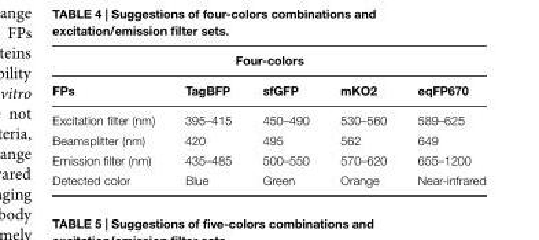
<table><thead><tr><td colspan="5">Four-colors</td></tr><tr><td>FPs</td><td>TagBFP</td><td>sfGFP</td><td>mKO2</td><td>eqFP670</td></tr></thead><tbody><tr><td>Excitation filter (nm)</td><td>395–415</td><td>450–490</td><td>530–560</td><td>589–625</td></tr><tr><td>Beamsplitter (nm)</td><td>420</td><td>495</td><td>562</td><td>649</td></tr><tr><td>Emission filter (nm)</td><td>435–485</td><td>500–550</td><td>570–620</td><td>655–1200</td></tr><tr><td>Detected color</td><td>Blue</td><td>Green</td><td>Orange</td><td>Near-infrared</td></tr></tbody></table>